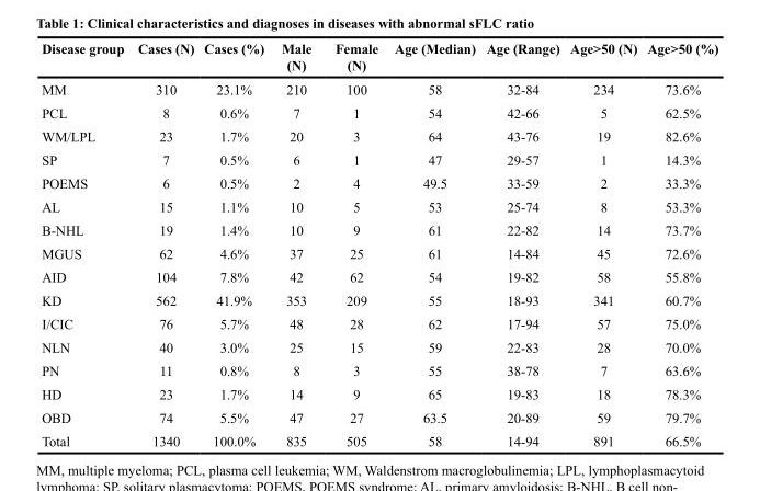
<table><thead><tr><td>Disease group</td><td>Cases (N)</td><td>Cases (%)</td><td>Male (N)</td><td>Female (N)</td><td>Age (Median)</td><td>Age (Range)</td><td>Age&gt;50 (N)</td><td>Age&gt;50 (%)</td></tr></thead><tbody><tr><td>MM</td><td>310</td><td>23.1%</td><td>210</td><td>100</td><td>58</td><td>32-84</td><td>234</td><td>73.6%</td></tr><tr><td>PCL</td><td>8</td><td>0.6%</td><td>7</td><td>1</td><td>54</td><td>42-66</td><td>5</td><td>62.5%</td></tr><tr><td>WM/LPL</td><td>23</td><td>1.7%</td><td>20</td><td>3</td><td>64</td><td>43-76</td><td>19</td><td>82.6%</td></tr><tr><td>SP</td><td>7</td><td>0.5%</td><td>6</td><td>1</td><td>47</td><td>29-57</td><td>1</td><td>14.3%</td></tr><tr><td>POEMS</td><td>6</td><td>0.5%</td><td>2</td><td>4</td><td>49.5</td><td>33-59</td><td>2</td><td>33.3%</td></tr><tr><td>AL</td><td>15</td><td>1.1%</td><td>10</td><td>5</td><td>53</td><td>25-74</td><td>8</td><td>53.3%</td></tr><tr><td>B-NHL</td><td>19</td><td>1.4%</td><td>10</td><td>9</td><td>61</td><td>22-82</td><td>14</td><td>73.7%</td></tr><tr><td>MGUS</td><td>62</td><td>4.6%</td><td>37</td><td>25</td><td>61</td><td>14-84</td><td>45</td><td>72.6%</td></tr><tr><td>AID</td><td>104</td><td>7.8%</td><td>42</td><td>62</td><td>54</td><td>19-82</td><td>58</td><td>55.8%</td></tr><tr><td>KD</td><td>562</td><td>41.9%</td><td>353</td><td>209</td><td>55</td><td>18-93</td><td>341</td><td>60.7%</td></tr><tr><td>I/CIC</td><td>76</td><td>5.7%</td><td>48</td><td>28</td><td>62</td><td>17-94</td><td>57</td><td>75.0%</td></tr><tr><td>NLN</td><td>40</td><td>3.0%</td><td>25</td><td>15</td><td>59</td><td>22-83</td><td>28</td><td>70.0%</td></tr><tr><td>PN</td><td>11</td><td>0.8%</td><td>8</td><td>3</td><td>55</td><td>38-78</td><td>7</td><td>63.6%</td></tr><tr><td>HD</td><td>23</td><td>1.7%</td><td>14</td><td>9</td><td>65</td><td>19-83</td><td>18</td><td>78.3%</td></tr><tr><td>OBD</td><td>74</td><td>5.5%</td><td>47</td><td>27</td><td>63.5</td><td>20-89</td><td>59</td><td>79.7%</td></tr><tr><td>Total</td><td>1340</td><td>100.0%</td><td>835</td><td>505</td><td>58</td><td>14-94</td><td>891</td><td>66.5%</td></tr></tbody></table>